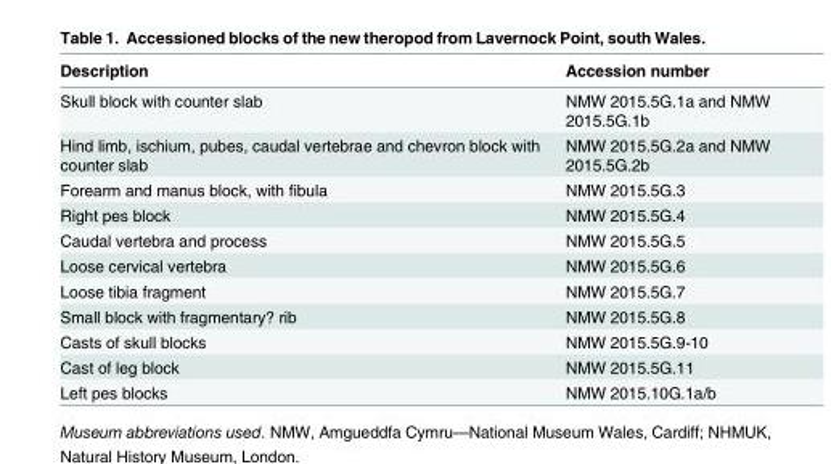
<table><thead><tr><td>Description</td><td>Accession number</td></tr></thead><tbody><tr><td>Skull block with counter slab</td><td>NMW 2015.5G.1a and NMW 2015.5G.1b</td></tr><tr><td>Hind limb, ischium, pubes, caudal vertebrae and chevron block with counter slab</td><td>NMW 2015.5G.2a and NMW 2015.5G.2b</td></tr><tr><td>Forearm and manus block, with fibula</td><td>NMW 2015.5G.3</td></tr><tr><td>Right pes block</td><td>NMW 2015.5G.4</td></tr><tr><td>Caudal vertebra and process</td><td>NMW 2015.5G.5</td></tr><tr><td>Loose cervical vertebra</td><td>NMW 2015.5G.6</td></tr><tr><td>Loose tibia fragment</td><td>NMW 2015.5G.7</td></tr><tr><td>Small block with fragmentary? rib</td><td>NMW 2015.5G.8</td></tr><tr><td>Casts of skull blocks</td><td>NMW 2015.5G.9-10</td></tr><tr><td>Cast of leg block</td><td>NMW 2015.5G.11</td></tr><tr><td>Left pes blocks</td><td>NMW 2015.10G.1a/b</td></tr></tbody></table>